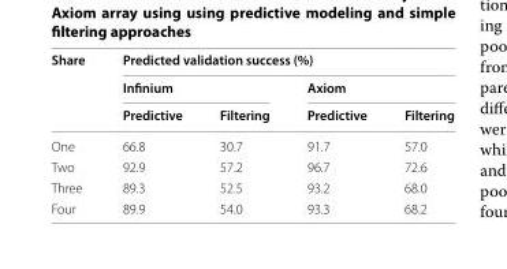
<table><thead><tr><td rowspan="3">Share</td><td colspan="4">Predicted validation success (%)</td></tr><tr><td colspan="2">Infinium</td><td colspan="2">Axiom</td></tr><tr><td>Predictive</td><td>Filtering</td><td>Predictive</td><td>Filtering</td></tr></thead><tbody><tr><td>One</td><td>66.8</td><td>30.7</td><td>91.7</td><td>57.0</td></tr><tr><td>Two</td><td>92.9</td><td>57.2</td><td>96.7</td><td>72.6</td></tr><tr><td>Three</td><td>89.3</td><td>52.5</td><td>93.2</td><td>68.0</td></tr><tr><td>Four</td><td>89.9</td><td>54.0</td><td>93.3</td><td>68.2</td></tr></tbody></table>